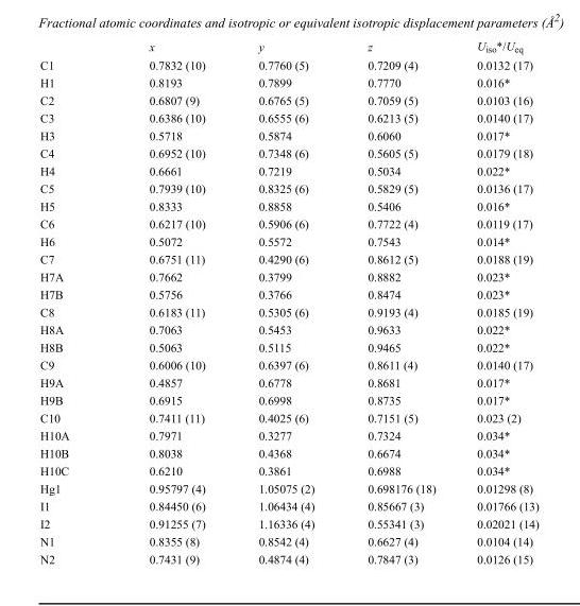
<table><thead><tr><td></td><td>x</td><td>y</td><td>z</td><td>U<sub>iso</sub>*/U<sub>eq</sub></td></tr></thead><tbody><tr><td>C1</td><td>0.7832 (10)</td><td>0.7760 (5)</td><td>0.7209 (4)</td><td>0.0132 (17)</td></tr><tr><td>H1</td><td>0.8193</td><td>0.7899</td><td>0.7770</td><td>0.016*</td></tr><tr><td>C2</td><td>0.6807 (9)</td><td>0.6765 (5)</td><td>0.7059 (5)</td><td>0.0103 (16)</td></tr><tr><td>C3</td><td>0.6386 (10)</td><td>0.6555 (6)</td><td>0.6213 (5)</td><td>0.0140 (17)</td></tr><tr><td>H3</td><td>0.5718</td><td>0.5874</td><td>0.6060</td><td>0.017*</td></tr><tr><td>C4</td><td>0.6952 (10)</td><td>0.7348 (6)</td><td>0.5605 (5)</td><td>0.0179 (18)</td></tr><tr><td>H4</td><td>0.6661</td><td>0.7219</td><td>0.5034</td><td>0.022*</td></tr><tr><td>C5</td><td>0.7939 (10)</td><td>0.8325 (6)</td><td>0.5829 (5)</td><td>0.0136 (17)</td></tr><tr><td>H5</td><td>0.8333</td><td>0.8858</td><td>0.5406</td><td>0.016*</td></tr><tr><td>C6</td><td>0.6217 (10)</td><td>0.5906 (6)</td><td>0.7722 (4)</td><td>0.0119 (17)</td></tr><tr><td>H6</td><td>0.5072</td><td>0.5572</td><td>0.7543</td><td>0.014*</td></tr><tr><td>C7</td><td>0.6751 (11)</td><td>0.4290 (6)</td><td>0.8612 (5)</td><td>0.0188 (19)</td></tr><tr><td>H7A</td><td>0.7662</td><td>0.3799</td><td>0.8882</td><td>0.023*</td></tr><tr><td>H7B</td><td>0.5756</td><td>0.3766</td><td>0.8474</td><td>0.023*</td></tr><tr><td>C8</td><td>0.6183 (11)</td><td>0.5305 (6)</td><td>0.9193 (4)</td><td>0.0185 (19)</td></tr><tr><td>H8A</td><td>0.7063</td><td>0.5453</td><td>0.9633</td><td>0.022*</td></tr><tr><td>H8B</td><td>0.5063</td><td>0.5115</td><td>0.9465</td><td>0.022*</td></tr><tr><td>C9</td><td>0.6006 (10)</td><td>0.6397 (6)</td><td>0.8611 (4)</td><td>0.0140 (17)</td></tr><tr><td>H9A</td><td>0.4857</td><td>0.6778</td><td>0.8681</td><td>0.017*</td></tr><tr><td>H9B</td><td>0.6915</td><td>0.6998</td><td>0.8735</td><td>0.017*</td></tr><tr><td>C10</td><td>0.7411 (11)</td><td>0.4025 (6)</td><td>0.7151 (5)</td><td>0.023 (2)</td></tr><tr><td>H10A</td><td>0.7971</td><td>0.3277</td><td>0.7324</td><td>0.034*</td></tr><tr><td>H10B</td><td>0.8038</td><td>0.4368</td><td>0.6674</td><td>0.034*</td></tr><tr><td>H10C</td><td>0.6210</td><td>0.3861</td><td>0.6988</td><td>0.034*</td></tr><tr><td>Hg1</td><td>0.95797 (4)</td><td>1.05075 (2)</td><td>0.698176 (18)</td><td>0.01298 (8)</td></tr><tr><td>I1</td><td>0.84450 (6)</td><td>1.06434 (4)</td><td>0.85667 (3)</td><td>0.01766 (13)</td></tr><tr><td>I2</td><td>0.91255 (7)</td><td>1.16336 (4)</td><td>0.55341 (3)</td><td>0.02021 (14)</td></tr><tr><td>N1</td><td>0.8355 (8)</td><td>0.8542 (4)</td><td>0.6627 (4)</td><td>0.0104 (14)</td></tr><tr><td>N2</td><td>0.7431 (9)</td><td>0.4874 (4)</td><td>0.7847 (3)</td><td>0.0126 (15)</td></tr></tbody></table>